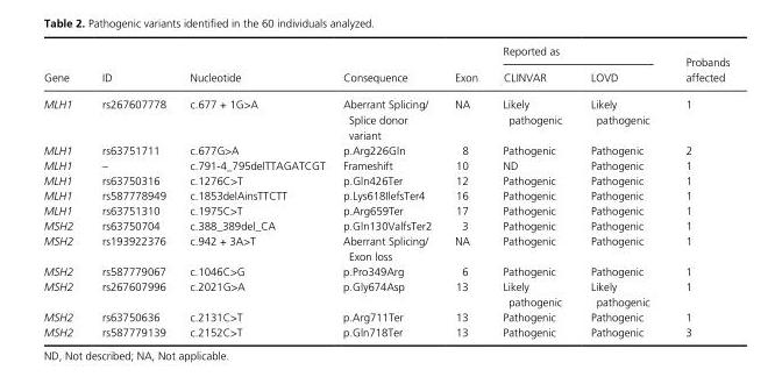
<table><thead><tr><td rowspan="2">Gene</td><td rowspan="2">ID</td><td rowspan="2">Nucleotide</td><td rowspan="2">Consequence</td><td rowspan="2">Exon</td><td colspan="2">Reported as</td><td rowspan="2">Probands affected</td></tr><tr><td>CLINVAR</td><td>LOVD</td></tr></thead><tbody><tr><td>MLH1</td><td>rs267607778</td><td>c.677 + 1G&gt;A</td><td>Aberrant Splicing/ Splice donor variant</td><td>NA</td><td>Likely pathogenic</td><td>Likely pathogenic</td><td>1</td></tr><tr><td>MLH1</td><td>rs63751711</td><td>c.677G&gt;A</td><td>p.Arg226Gln</td><td>8</td><td>Pathogenic</td><td>Pathogenic</td><td>2</td></tr><tr><td>MLH1</td><td>–</td><td>c.791- 4_795delTTAGATCGT</td><td>Frameshift</td><td>10</td><td>ND</td><td>Pathogenic</td><td>1</td></tr><tr><td>MLH1</td><td>rs63750316</td><td>c.1276C&gt;T</td><td>p.Gln426Ter</td><td>12</td><td>Pathogenic</td><td>Pathogenic</td><td>1</td></tr><tr><td>MLH1</td><td>rs587778949</td><td>c.1853delAinsTTCTT</td><td>p.Lys618IlefsTer4</td><td>16</td><td>Pathogenic</td><td>Pathogenic</td><td>1</td></tr><tr><td>MLH1</td><td>rs63751310</td><td>c.1975C&gt;T</td><td>p.Arg659Ter</td><td>17</td><td>Pathogenic</td><td>Pathogenic</td><td>1</td></tr><tr><td>MSH2</td><td>rs63750704</td><td>c.388_389del_CA</td><td>p.Gln130ValfsTer2</td><td>3</td><td>Pathogenic</td><td>Pathogenic</td><td>1</td></tr><tr><td>MSH2</td><td>rs193922376</td><td>c.942 + 3A&gt;T</td><td>Aberrant Splicing/ Exon loss</td><td>NA</td><td>Pathogenic</td><td>Pathogenic</td><td>1</td></tr><tr><td>MSH2</td><td>rs587779067</td><td>c.1046C&gt;G</td><td>p.Pro349Arg</td><td>6</td><td>Pathogenic</td><td>Pathogenic</td><td>1</td></tr><tr><td>MSH2</td><td>rs267607996</td><td>c.2021G&gt;A</td><td>p.Gly674Asp</td><td>13</td><td>Likely pathogenic</td><td>Likely pathogenic</td><td>1</td></tr><tr><td>MSH2</td><td>rs63750636</td><td>c.2131C&gt;T</td><td>p.Arg711Ter</td><td>13</td><td>Pathogenic</td><td>Pathogenic</td><td>1</td></tr><tr><td>MSH2</td><td>rs587779139</td><td>c.2152C&gt;T</td><td>p.Gln718Ter</td><td>13</td><td>Pathogenic</td><td>Pathogenic</td><td>3</td></tr></tbody></table>